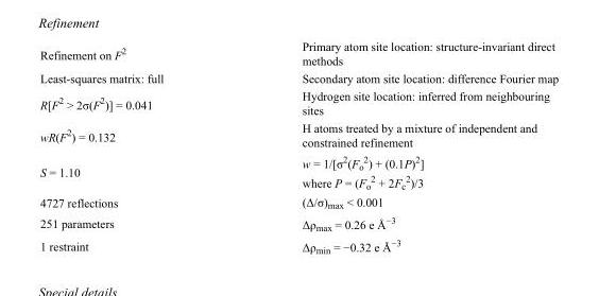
<table><tbody><tr><td>Refinement on F<sup>2</sup></td><td>Primary atom site location: structure-invariant direct methods</td></tr><tr><td>Least-squares matrix: full</td><td>Secondary atom site location: difference Fourier map</td></tr><tr><td>R[F<sup>2</sup> &gt; 2σ(F<sup>2</sup>)] = 0.041</td><td>Hydrogen site location: inferred from neighbouring sites</td></tr><tr><td>wR(F<sup>2</sup>) = 0.132</td><td>H atoms treated by a mixture of independent and constrained refinement</td></tr><tr><td>S = 1.10</td><td>w = 1/[σ<sup>2</sup>(F<sub>o</sub> <sup>2</sup>) + (0.1P)<sup>2</sup>] where P = (F<sub>o</sub> <sup>2</sup> + 2F<sub>c</sub> <sup>2</sup>)/3</td></tr><tr><td>4727 reflections</td><td>(Δ/σ)<sub>max</sub> &lt; 0.001</td></tr><tr><td>251 parameters</td><td>Δρ<sub>max</sub> = 0.26 e Å<sup>−3</sup></td></tr><tr><td>1 restraint</td><td>Δρ<sub>min</sub> = −0.32 e Å<sup>−3</sup></td></tr></tbody></table>